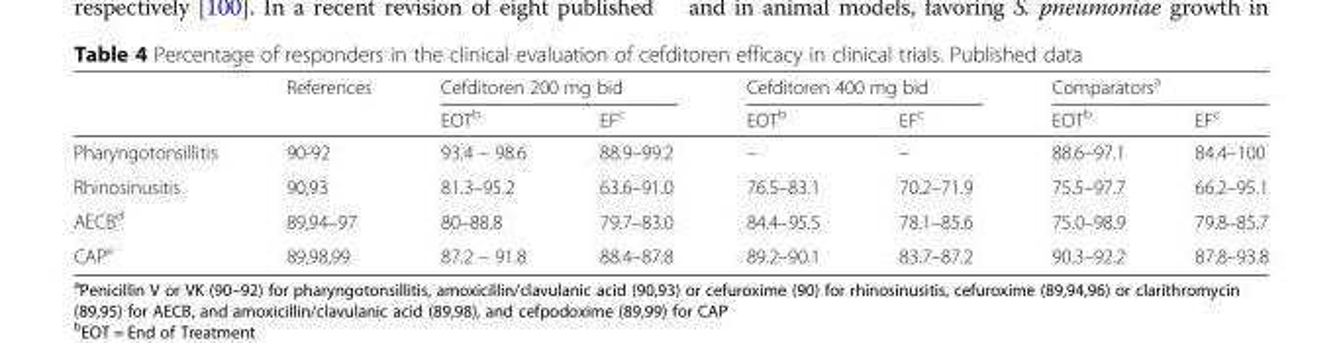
<table><thead><tr><td rowspan="2"></td><td rowspan="2">References</td><td colspan="2">Cefditoren 200 mg bid</td><td colspan="2">Cefditoren 400 mg bid</td><td colspan="2">Comparators<sup>a</sup></td></tr><tr><td>EOT<sup>b</sup></td><td>EF<sup>c</sup></td><td>EOT<sup>b</sup></td><td>EF<sup>c</sup></td><td>EOT<sup>b</sup></td><td>EF<sup>c</sup></td></tr></thead><tbody><tr><td>Pharyngotonsillitis</td><td>90-92</td><td>93.4 – 98.6</td><td>88.9–99.2</td><td>–</td><td>–</td><td>88.6–97.1</td><td>84.4–100</td></tr><tr><td>Rhinosinusitis</td><td>90,93</td><td>81.3–95.2</td><td>63.6–91.0</td><td>76.5–83.1</td><td>70.2–71.9</td><td>75.5–97.7</td><td>66.2–95.1</td></tr><tr><td>AECB<sup>d</sup></td><td>89,94–97</td><td>80–88.8</td><td>79.7–83.0</td><td>84.4–95.5</td><td>78.1–85.6</td><td>75.0–98.9</td><td>79.8–85.7</td></tr><tr><td>CAP<sup>e</sup></td><td>89,98,99</td><td>87.2 – 91.8</td><td>88.4–87.8</td><td>89.2–90.1</td><td>83.7–87.2</td><td>90.3–92.2</td><td>87.8–93.8</td></tr></tbody></table>